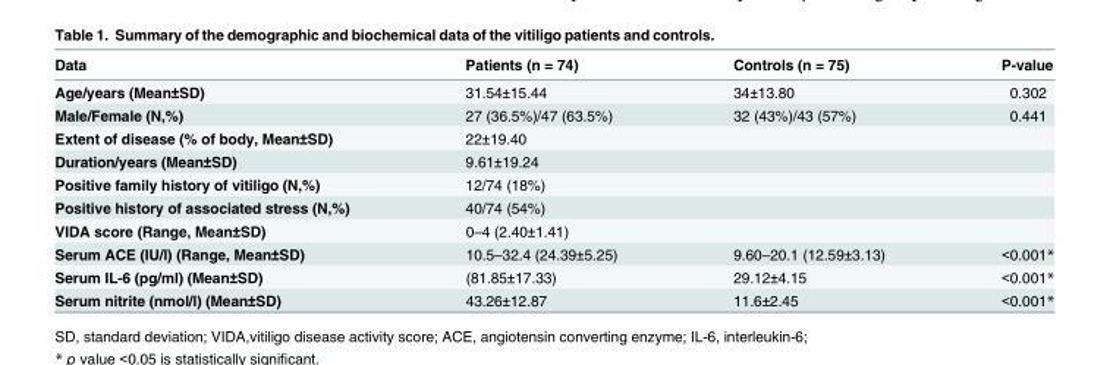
<table><thead><tr><td>Data</td><td>Patients (n = 74)</td><td>Controls (n = 75)</td><td>P-value</td></tr></thead><tbody><tr><td>Age/years (Mean±SD)</td><td>31.54±15.44</td><td>34±13.80</td><td>0.302</td></tr><tr><td>Male/Female (N,%)</td><td>27 (36.5%)/47 (63.5%)</td><td>32 (43%)/43 (57%)</td><td>0.441</td></tr><tr><td>Extent of disease (% of body, Mean±SD)</td><td>22±19.40</td><td></td><td></td></tr><tr><td>Duration/years (Mean±SD)</td><td>9.61±19.24</td><td></td><td></td></tr><tr><td>Positive family history of vitiligo (N,%)</td><td>12/74 (18%)</td><td></td><td></td></tr><tr><td>Positive history of associated stress (N,%)</td><td>40/74 (54%)</td><td></td><td></td></tr><tr><td>VIDA score (Range, Mean±SD)</td><td>0–4 (2.40±1.41)</td><td></td><td></td></tr><tr><td>Serum ACE (IU/l) (Range, Mean±SD)</td><td>10.5–32.4 (24.39±5.25)</td><td>9.60–20.1 (12.59±3.13)</td><td>&lt;0.001*</td></tr><tr><td>Serum IL-6 (pg/ml) (Mean±SD)</td><td>(81.85±17.33)</td><td>29.12±4.15</td><td>&lt;0.001*</td></tr><tr><td>Serum nitrite (nmol/l) (Mean±SD)</td><td>43.26±12.87</td><td>11.6±2.45</td><td>&lt;0.001*</td></tr></tbody></table>